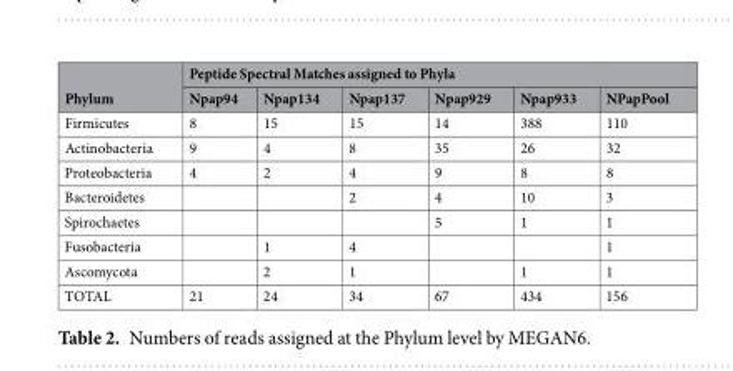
<table><thead><tr><td rowspan="2">Phylum</td><td colspan="6">Peptide Spectral Matches assigned to Phyla</td></tr><tr><td>Npap94</td><td>Npap134</td><td>Npap137</td><td>Npap929</td><td>Npap933</td><td>NPapPool</td></tr></thead><tbody><tr><td>Firmicutes</td><td>8</td><td>15</td><td>15</td><td>14</td><td>388</td><td>110</td></tr><tr><td>Actinobacteria</td><td>9</td><td>4</td><td>8</td><td>35</td><td>26</td><td>32</td></tr><tr><td>Proteobacteria</td><td>4</td><td>2</td><td>4</td><td>9</td><td>8</td><td>8</td></tr><tr><td>Bacteroidetes</td><td></td><td></td><td>2</td><td>4</td><td>10</td><td>3</td></tr><tr><td>Spirochaetes</td><td></td><td></td><td></td><td>5</td><td>1</td><td>1</td></tr><tr><td>Fusobacteria</td><td></td><td>1</td><td>4</td><td></td><td></td><td>1</td></tr><tr><td>Ascomycota</td><td></td><td>2</td><td>1</td><td></td><td>1</td><td>1</td></tr><tr><td>TOTAL</td><td>21</td><td>24</td><td>34</td><td>67</td><td>434</td><td>156</td></tr></tbody></table>